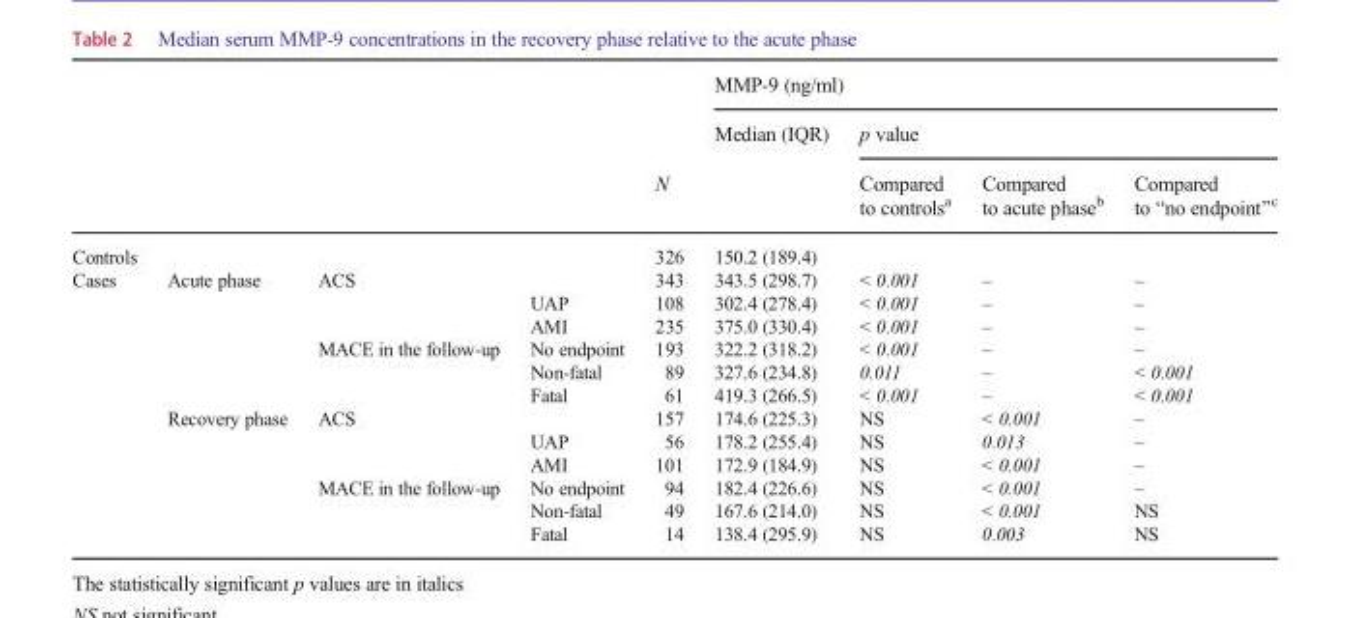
<table><thead><tr><td rowspan="3"></td><td rowspan="3"></td><td rowspan="3"></td><td rowspan="3"></td><td rowspan="3">N</td><td colspan="4">MMP-9 (ng/ml)</td></tr><tr><td rowspan="2">Median (IQR)</td><td colspan="3">p value</td></tr><tr><td>Compared to controls<sup>a</sup></td><td>Compared to acute phase<sup>b</sup></td><td>Compared to “no endpoint”<sup>c</sup></td></tr></thead><tbody><tr><td>Controls</td><td></td><td></td><td></td><td>326</td><td>150.2 (189.4)</td><td></td><td></td><td></td></tr><tr><td rowspan="12">Cases</td><td rowspan="6">Acute phase</td><td rowspan="3">ACS</td><td></td><td>343</td><td>343.5 (298.7)</td><td>&lt; 0.001</td><td>–</td><td>–</td></tr><tr><td>UAP</td><td>108</td><td>302.4 (278.4)</td><td>&lt; 0.001</td><td>–</td><td>–</td></tr><tr><td>AMI</td><td>235</td><td>375.0 (330.4)</td><td>&lt; 0.001</td><td>–</td><td>–</td></tr><tr><td rowspan="3">MACE in the follow-up</td><td>No endpoint</td><td>193</td><td>322.2 (318.2)</td><td>&lt; 0.001</td><td>–</td><td>–</td></tr><tr><td>Non-fatal</td><td>89</td><td>327.6 (234.8)</td><td>0.011</td><td>–</td><td>&lt; 0.001</td></tr><tr><td>Fatal</td><td>61</td><td>419.3 (266.5)</td><td>&lt; 0.001</td><td>–</td><td>&lt; 0.001</td></tr><tr><td rowspan="6">Recovery phase</td><td rowspan="3">ACS</td><td></td><td>157</td><td>174.6 (225.3)</td><td>NS</td><td>&lt; 0.001</td><td>–</td></tr><tr><td>UAP</td><td>56</td><td>178.2 (255.4)</td><td>NS</td><td>0.013</td><td>–</td></tr><tr><td>AMI</td><td>101</td><td>172.9 (184.9)</td><td>NS</td><td>&lt; 0.001</td><td>–</td></tr><tr><td rowspan="3">MACE in the follow-up</td><td>No endpoint</td><td>94</td><td>182.4 (226.6)</td><td>NS</td><td>&lt; 0.001</td><td>–</td></tr><tr><td>Non-fatal</td><td>49</td><td>167.6 (214.0)</td><td>NS</td><td>&lt; 0.001</td><td>NS</td></tr><tr><td>Fatal</td><td>14</td><td>138.4 (295.9)</td><td>NS</td><td>0.003</td><td>NS</td></tr></tbody></table>